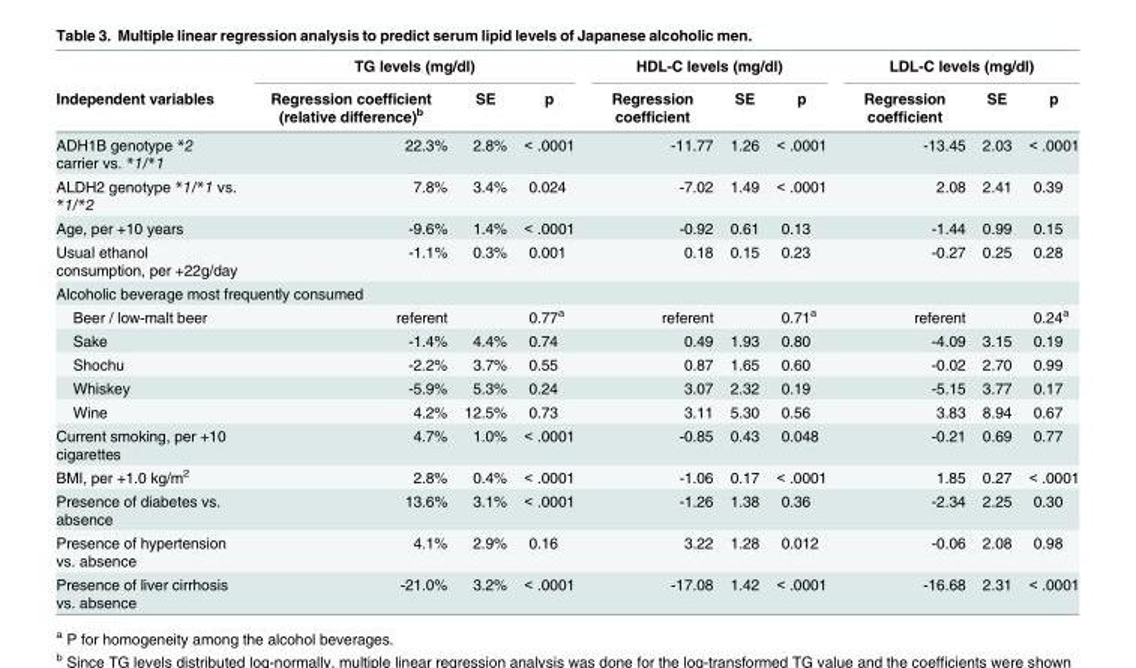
<table><thead><tr><td rowspan="2">Independent variables</td><td colspan="3">TG levels (mg/dl)</td><td colspan="3">HDL-C levels (mg/dl)</td><td colspan="3">LDL-C levels (mg/dl)</td></tr><tr><td>Regression coefficient (relative difference)<sup>b</sup></td><td>SE</td><td>p</td><td>Regression coefficient</td><td>SE</td><td>p</td><td>Regression coefficient</td><td>SE</td><td>p</td></tr></thead><tbody><tr><td>ADH1B genotype *2 carrier vs. *1/*1</td><td>22.3%</td><td>2.8%</td><td>&lt; .0001</td><td>-11.77</td><td>1.26</td><td>&lt; .0001</td><td>-13.45</td><td>2.03</td><td>&lt; .0001</td></tr><tr><td>ALDH2 genotype *1/*1 vs. *1/*2</td><td>7.8%</td><td>3.4%</td><td>0.024</td><td>-7.02</td><td>1.49</td><td>&lt; .0001</td><td>2.08</td><td>2.41</td><td>0.39</td></tr><tr><td>Age, per +10 years</td><td>-9.6%</td><td>1.4%</td><td>&lt; .0001</td><td>-0.92</td><td>0.61</td><td>0.13</td><td>-1.44</td><td>0.99</td><td>0.15</td></tr><tr><td>Usual ethanol consumption, per +22g/day</td><td>-1.1%</td><td>0.3%</td><td>0.001</td><td>0.18</td><td>0.15</td><td>0.23</td><td>-0.27</td><td>0.25</td><td>0.28</td></tr><tr><td colspan="10">Alcoholic beverage most frequently consumed</td></tr><tr><td>Beer / low-malt beer</td><td>referent</td><td></td><td>0.77<sup>a</sup></td><td>referent</td><td></td><td>0.71<sup>a</sup></td><td>referent</td><td></td><td>0.24<sup>a</sup></td></tr><tr><td>Sake</td><td>-1.4%</td><td>4.4%</td><td>0.74</td><td>0.49</td><td>1.93</td><td>0.80</td><td>-4.09</td><td>3.15</td><td>0.19</td></tr><tr><td>Shochu</td><td>-2.2%</td><td>3.7%</td><td>0.55</td><td>0.87</td><td>1.65</td><td>0.60</td><td>-0.02</td><td>2.70</td><td>0.99</td></tr><tr><td>Whiskey</td><td>-5.9%</td><td>5.3%</td><td>0.24</td><td>3.07</td><td>2.32</td><td>0.19</td><td>-5.15</td><td>3.77</td><td>0.17</td></tr><tr><td>Wine</td><td>4.2%</td><td>12.5%</td><td>0.73</td><td>3.11</td><td>5.30</td><td>0.56</td><td>3.83</td><td>8.94</td><td>0.67</td></tr><tr><td>Current smoking, per +10 cigarettes</td><td>4.7%</td><td>1.0%</td><td>&lt; .0001</td><td>-0.85</td><td>0.43</td><td>0.048</td><td>-0.21</td><td>0.69</td><td>0.77</td></tr><tr><td>BMI, per +1.0 kg/m<sup>2</sup></td><td>2.8%</td><td>0.4%</td><td>&lt; .0001</td><td>-1.06</td><td>0.17</td><td>&lt; .0001</td><td>1.85</td><td>0.27</td><td>&lt; .0001</td></tr><tr><td>Presence of diabetes vs. absence</td><td>13.6%</td><td>3.1%</td><td>&lt; .0001</td><td>-1.26</td><td>1.38</td><td>0.36</td><td>-2.34</td><td>2.25</td><td>0.30</td></tr><tr><td>Presence of hypertension vs. absence</td><td>4.1%</td><td>2.9%</td><td>0.16</td><td>3.22</td><td>1.28</td><td>0.012</td><td>-0.06</td><td>2.08</td><td>0.98</td></tr><tr><td>Presence of liver cirrhosis vs. absence</td><td>-21.0%</td><td>3.2%</td><td>&lt; .0001</td><td>-17.08</td><td>1.42</td><td>&lt; .0001</td><td>-16.68</td><td>2.31</td><td>&lt; .0001</td></tr></tbody></table>